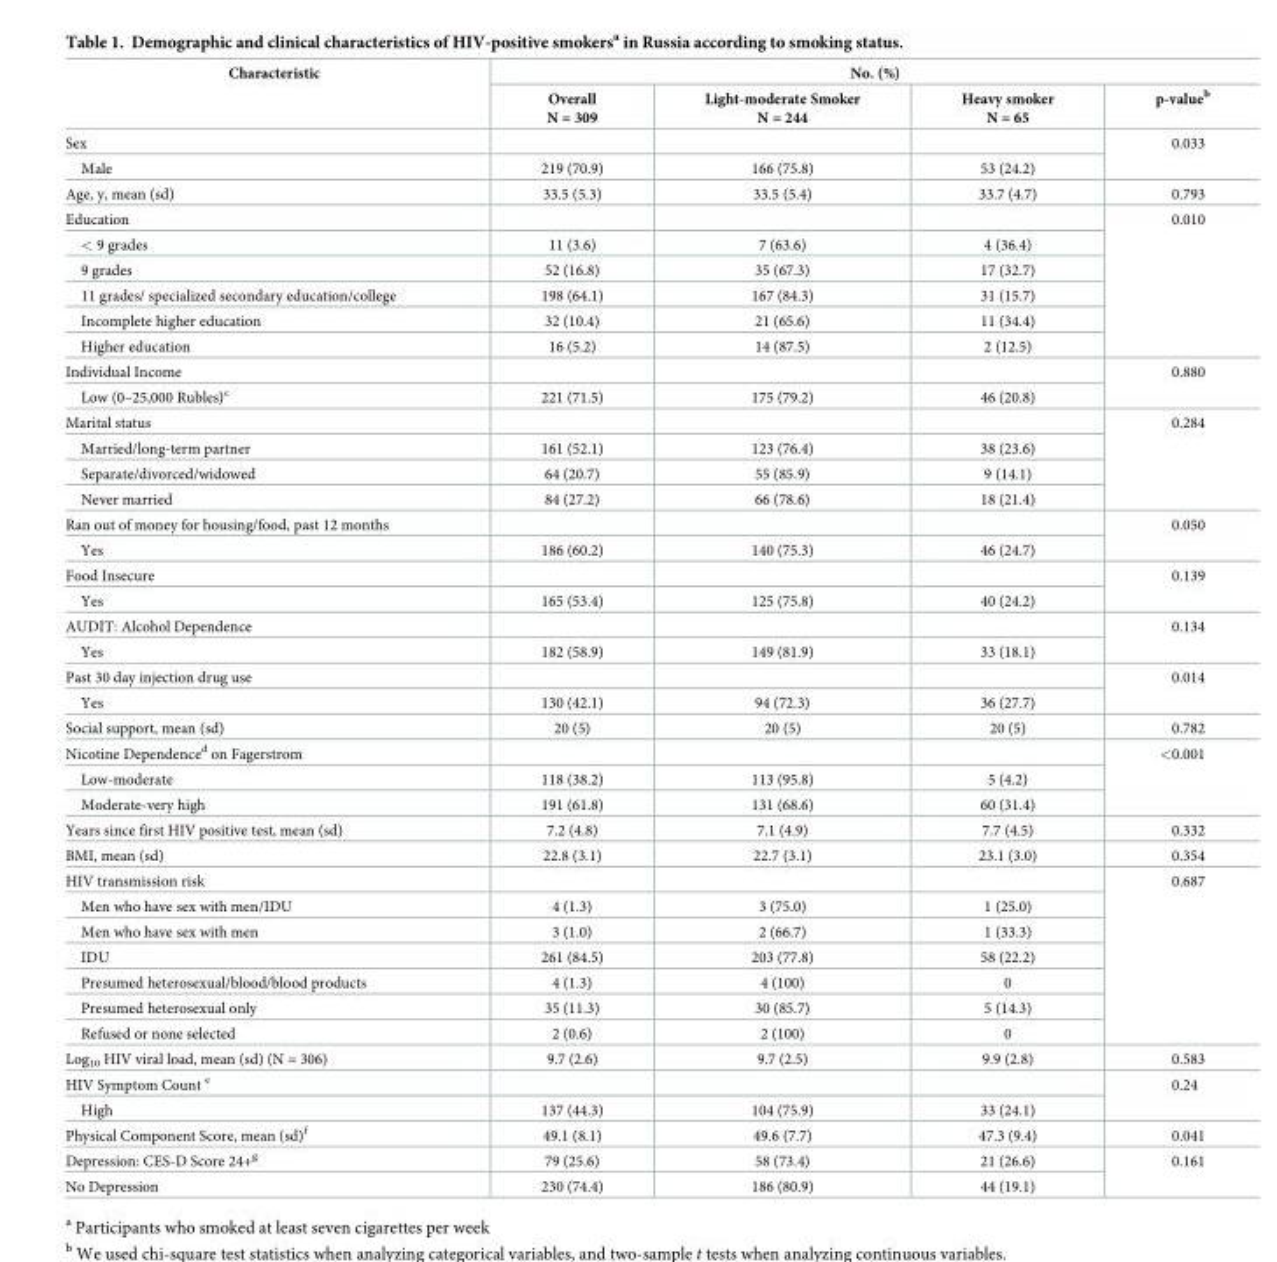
<table><thead><tr><td rowspan="2">Characteristic</td><td colspan="4">No. (%)</td></tr><tr><td>Overall N = 309</td><td>Light-moderate Smoker N = 244</td><td>Heavy smoker N = 65</td><td>p-value<sup>b</sup></td></tr></thead><tbody><tr><td colspan="4">Sex</td><td rowspan="2">0.033</td></tr><tr><td>Male</td><td>219 (70.9)</td><td>166 (75.8)</td><td>53 (24.2)</td></tr><tr><td>Age, y, mean (sd)</td><td>33.5 (5.3)</td><td>33.5 (5.4)</td><td>33.7 (4.7)</td><td>0.793</td></tr><tr><td colspan="4">Education</td><td rowspan="6">0.010</td></tr><tr><td>&lt; 9 grades</td><td>11 (3.6)</td><td>7 (63.6)</td><td>4 (36.4)</td></tr><tr><td>9 grades</td><td>52 (16.8)</td><td>35 (67.3)</td><td>17 (32.7)</td></tr><tr><td>11 grades/ specialized secondary education/college</td><td>198 (64.1)</td><td>167 (84.3)</td><td>31 (15.7)</td></tr><tr><td>Incomplete higher education</td><td>32 (10.4)</td><td>21 (65.6)</td><td>11 (34.4)</td></tr><tr><td>Higher education</td><td>16 (5.2)</td><td>14 (87.5)</td><td>2 (12.5)</td></tr><tr><td colspan="4">Individual Income</td><td rowspan="2">0.880</td></tr><tr><td>Low (0–25,000 Rubles)<sup>c</sup></td><td>221 (71.5)</td><td>175 (79.2)</td><td>46 (20.8)</td></tr><tr><td colspan="4">Marital status</td><td rowspan="4">0.284</td></tr><tr><td>Married/long-term partner</td><td>161 (52.1)</td><td>123 (76.4)</td><td>38 (23.6)</td></tr><tr><td>Separate/divorced/widowed</td><td>64 (20.7)</td><td>55 (85.9)</td><td>9 (14.1)</td></tr><tr><td>Never married</td><td>84 (27.2)</td><td>66 (78.6)</td><td>18 (21.4)</td></tr><tr><td colspan="4">Ran out of money for housing/food, past 12 months</td><td rowspan="2">0.050</td></tr><tr><td>Yes</td><td>186 (60.2)</td><td>140 (75.3)</td><td>46 (24.7)</td></tr><tr><td colspan="4">Food Insecure</td><td rowspan="2">0.139</td></tr><tr><td>Yes</td><td>165 (53.4)</td><td>125 (75.8)</td><td>40 (24.2)</td></tr><tr><td colspan="4">AUDIT: Alcohol Dependence</td><td rowspan="2">0.134</td></tr><tr><td>Yes</td><td>182 (58.9)</td><td>149 (81.9)</td><td>33 (18.1)</td></tr><tr><td colspan="4">Past 30 day injection drug use</td><td rowspan="2">0.014</td></tr><tr><td>Yes</td><td>130 (42.1)</td><td>94 (72.3)</td><td>36 (27.7)</td></tr><tr><td>Social support, mean (sd)</td><td>20 (5)</td><td>20 (5)</td><td>20 (5)</td><td>0.782</td></tr><tr><td colspan="4">Nicotine Dependence<sup>d</sup> on Fagerstrom</td><td rowspan="3">&lt;0.001</td></tr><tr><td>Low-moderate</td><td>118 (38.2)</td><td>113 (95.8)</td><td>5 (4.2)</td></tr><tr><td>Moderate-very high</td><td>191 (61.8)</td><td>131 (68.6)</td><td>60 (31.4)</td></tr><tr><td>Years since first HIV positive test, mean (sd)</td><td>7.2 (4.8)</td><td>7.1 (4.9)</td><td>7.7 (4.5)</td><td>0.332</td></tr><tr><td>BMI, mean (sd)</td><td>22.8 (3.1)</td><td>22.7 (3.1)</td><td>23.1 (3.0)</td><td>0.354</td></tr><tr><td colspan="4">HIV transmission risk</td><td rowspan="7">0.687</td></tr><tr><td>Men who have sex with men/IDU</td><td>4 (1.3)</td><td>3 (75.0)</td><td>1 (25.0)</td></tr><tr><td>Men who have sex with men</td><td>3 (1.0)</td><td>2 (66.7)</td><td>1 (33.3)</td></tr><tr><td>IDU</td><td>261 (84.5)</td><td>203 (77.8)</td><td>58 (22.2)</td></tr><tr><td>Presumed heterosexual/blood/blood products</td><td>4 (1.3)</td><td>4 (100)</td><td>0</td></tr><tr><td>Presumed heterosexual only</td><td>35 (11.3)</td><td>30 (85.7)</td><td>5 (14.3)</td></tr><tr><td>Refused or none selected</td><td>2 (0.6)</td><td>2 (100)</td><td>0</td></tr><tr><td>Log<sub>10</sub> HIV viral load, mean (sd) (N = 306)</td><td>9.7 (2.6)</td><td>9.7 (2.5)</td><td>9.9 (2.8)</td><td>0.583</td></tr><tr><td colspan="4">HIV Symptom Count <sup>e</sup></td><td rowspan="2">0.24</td></tr><tr><td>High</td><td>137 (44.3)</td><td>104 (75.9)</td><td>33 (24.1)</td></tr><tr><td>Physical Component Score, mean (sd)<sup>f</sup></td><td>49.1 (8.1)</td><td>49.6 (7.7)</td><td>47.3 (9.4)</td><td>0.041</td></tr><tr><td>Depression: CES-D Score 24+<sup>g</sup></td><td>79 (25.6)</td><td>58 (73.4)</td><td>21 (26.6)</td><td rowspan="2">0.161</td></tr><tr><td>No Depression</td><td>230 (74.4)</td><td>186 (80.9)</td><td>44 (19.1)</td></tr></tbody></table>